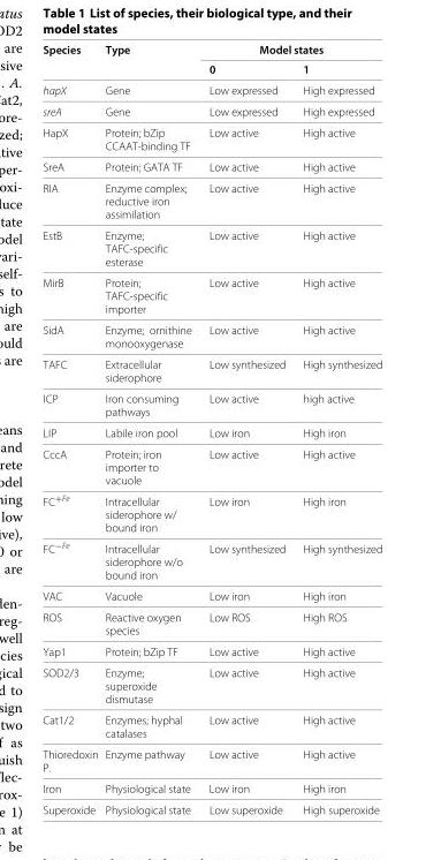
<table><thead><tr><td rowspan="2">Species</td><td rowspan="2">Type</td><td colspan="2">Model states</td></tr><tr><td>0</td><td>1</td></tr></thead><tbody><tr><td>hapX</td><td>Gene</td><td>Low expressed</td><td>High expressed</td></tr><tr><td>sreA</td><td>Gene</td><td>Low expressed</td><td>High expressed</td></tr><tr><td>HapX</td><td>Protein; bZip CCAAT-binding TF</td><td>Low active</td><td>High active</td></tr><tr><td>SreA</td><td>Protein; GATA TF</td><td>Low active</td><td>High active</td></tr><tr><td>RIA</td><td>Enzyme complex; reductive iron assimilation</td><td>Low active</td><td>High active</td></tr><tr><td>EstB</td><td>Enzyme; TAFC-specific esterase</td><td>Low active</td><td>High active</td></tr><tr><td>MirB</td><td>Protein; TAFC-specific importer</td><td>Low active</td><td>High active</td></tr><tr><td>SidA</td><td>Enzyme; ornithine monooxygenase</td><td>Low active</td><td>High active</td></tr><tr><td>TAFC</td><td>Extracellular siderophore</td><td>Low synthesized</td><td>High synthesized</td></tr><tr><td>ICP</td><td>Iron consuming pathways</td><td>Low active</td><td>high active</td></tr><tr><td>LIP</td><td>Labile iron pool</td><td>Low iron</td><td>High iron</td></tr><tr><td>CccA</td><td>Protein; iron importer to vacuole</td><td>Low active</td><td>High active</td></tr><tr><td>FC<sup>+Fe</sup></td><td>Intracellular siderophore w/ bound iron</td><td>Low iron</td><td>High iron</td></tr><tr><td>FC<sup>−Fe</sup></td><td>Intracellular siderophore w/o bound iron</td><td>Low synthesized</td><td>High synthesized</td></tr><tr><td>VAC</td><td>Vacuole</td><td>Low iron</td><td>High iron</td></tr><tr><td>ROS</td><td>Reactive oxygen species</td><td>Low ROS</td><td>High ROS</td></tr><tr><td>Yap1</td><td>Protein; bZip TF</td><td>Low active</td><td>High active</td></tr><tr><td>SOD2/3</td><td>Enzyme; superoxide dismutase</td><td>Low active</td><td>High active</td></tr><tr><td>Cat1/2</td><td>Enzymes; hyphal catalases</td><td>Low active</td><td>High active</td></tr><tr><td>Thioredoxin P.</td><td>Enzyme pathway</td><td>Low active</td><td>High active</td></tr><tr><td>Iron</td><td>Physiological state</td><td>Low iron</td><td>High iron</td></tr><tr><td>Superoxide</td><td>Physiological state</td><td>Low superoxide</td><td>High superoxide</td></tr></tbody></table>